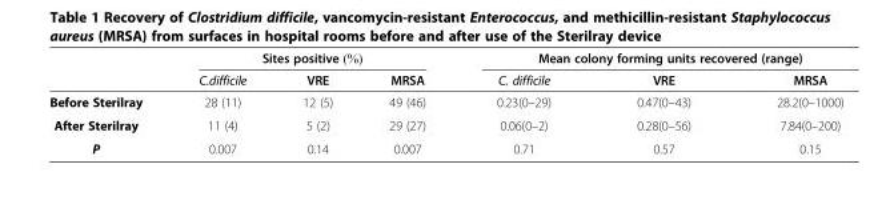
<table><thead><tr><td rowspan="2"></td><td colspan="3">Sites positive (%)</td><td colspan="3">Mean colony forming units recovered (range)</td></tr><tr><td>C.difficile</td><td>VRE</td><td>MRSA</td><td>C. difficile</td><td>VRE</td><td>MRSA</td></tr></thead><tbody><tr><td>Before Sterilray</td><td>28 (11)</td><td>12 (5)</td><td>49 (46)</td><td>0.23(0–29)</td><td>0.47(0–43)</td><td>28.2(0–1000)</td></tr><tr><td>After Sterilray</td><td>11 (4)</td><td>5 (2)</td><td>29 (27)</td><td>0.06(0–2)</td><td>0.28(0–56)</td><td>7.84(0–200)</td></tr><tr><td>P</td><td>0.007</td><td>0.14</td><td>0.007</td><td>0.71</td><td>0.57</td><td>0.15</td></tr></tbody></table>